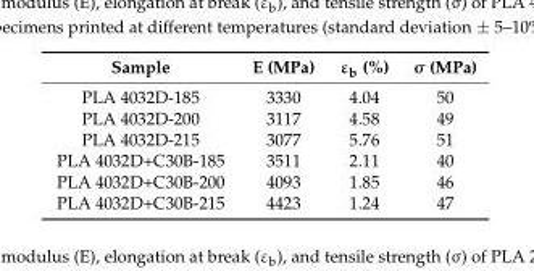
<table><thead><tr><td>Sample</td><td>E (MPa)</td><td>ε<sub>b</sub> (%)</td><td>σ (MPa)</td></tr></thead><tbody><tr><td>PLA 4032D-185</td><td>3330</td><td>4.04</td><td>50</td></tr><tr><td>PLA 4032D-200</td><td>3117</td><td>4.58</td><td>49</td></tr><tr><td>PLA 4032D-215</td><td>3077</td><td>5.76</td><td>51</td></tr><tr><td>PLA 4032D+C30B-185</td><td>3511</td><td>2.11</td><td>40</td></tr><tr><td>PLA 4032D+C30B-200</td><td>4093</td><td>1.85</td><td>46</td></tr><tr><td>PLA 4032D+C30B-215</td><td>4423</td><td>1.24</td><td>47</td></tr></tbody></table>